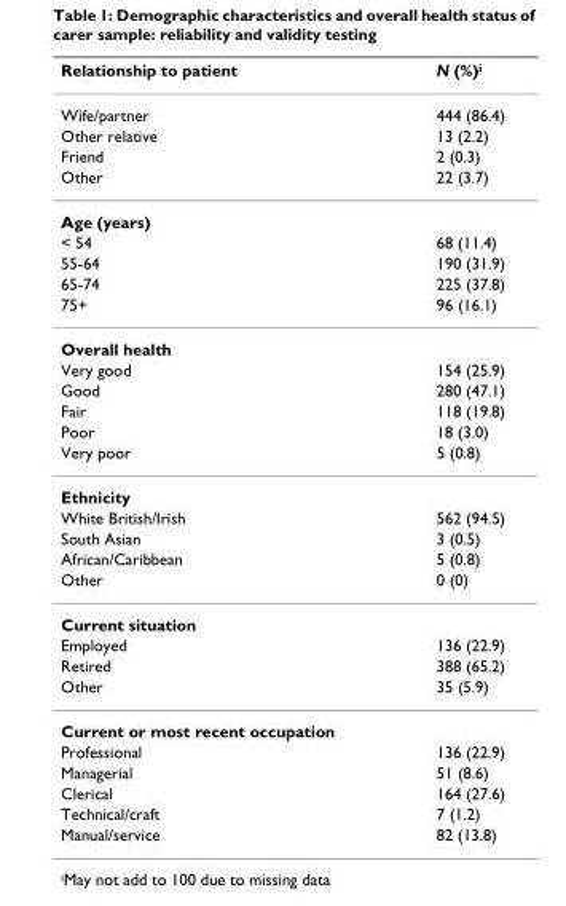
<table><thead><tr><td>Relationship to patient</td><td>N (%)<sup>i</sup></td></tr></thead><tbody><tr><td>Wife/partner</td><td>444 (86.4)</td></tr><tr><td>Other relative</td><td>13 (2.2)</td></tr><tr><td>Friend</td><td>2 (0.3)</td></tr><tr><td>Other</td><td>22 (3.7)</td></tr><tr><td colspan="2">Age (years)</td></tr><tr><td>&lt; 54</td><td>68 (11.4)</td></tr><tr><td>55-64</td><td>190 (31.9)</td></tr><tr><td>65-74</td><td>225 (37.8)</td></tr><tr><td>75+</td><td>96 (16.1)</td></tr><tr><td colspan="2">Overall health</td></tr><tr><td>Very good</td><td>154 (25.9)</td></tr><tr><td>Good</td><td>280 (47.1)</td></tr><tr><td>Fair</td><td>118 (19.8)</td></tr><tr><td>Poor</td><td>18 (3.0)</td></tr><tr><td>Very poor</td><td>5 (0.8)</td></tr><tr><td colspan="2">Ethnicity</td></tr><tr><td>White British/Irish</td><td>562 (94.5)</td></tr><tr><td>South Asian</td><td>3 (0.5)</td></tr><tr><td>African/Caribbean</td><td>5 (0.8)</td></tr><tr><td>Other</td><td>0 (0)</td></tr><tr><td colspan="2">Current situation</td></tr><tr><td>Employed</td><td>136 (22.9)</td></tr><tr><td>Retired</td><td>388 (65.2)</td></tr><tr><td>Other</td><td>35 (5.9)</td></tr><tr><td colspan="2">Current or most recent occupation</td></tr><tr><td>Professional</td><td>136 (22.9)</td></tr><tr><td>Managerial</td><td>51 (8.6)</td></tr><tr><td>Clerical</td><td>164 (27.6)</td></tr><tr><td>Technical/craft</td><td>7 (1.2)</td></tr><tr><td>Manual/service</td><td>82 (13.8)</td></tr></tbody></table>